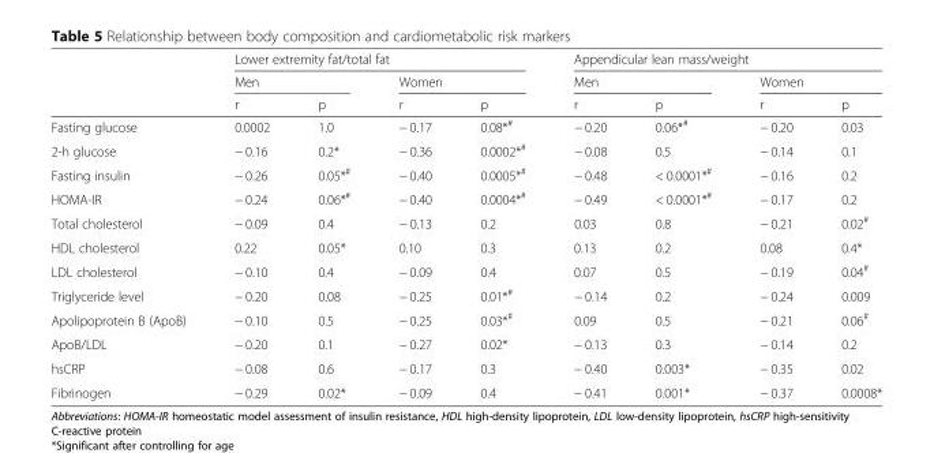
<table><thead><tr><td rowspan="3"></td><td colspan="4">Lower extremity fat/total fat</td><td colspan="4">Appendicular lean mass/weight</td></tr><tr><td colspan="2">Men</td><td colspan="2">Women</td><td colspan="2">Men</td><td colspan="2">Women</td></tr><tr><td>r</td><td>p</td><td>r</td><td>p</td><td>r</td><td>p</td><td>r</td><td>p</td></tr></thead><tbody><tr><td>Fasting glucose</td><td>0.0002</td><td>1.0</td><td>− 0.17</td><td>0.08*<sup>#</sup></td><td>− 0.20</td><td>0.06*<sup>#</sup></td><td>− 0.20</td><td>0.03</td></tr><tr><td>2-h glucose</td><td>− 0.16</td><td>0.2*</td><td>− 0.36</td><td>0.0002*<sup>#</sup></td><td>− 0.08</td><td>0.5</td><td>− 0.14</td><td>0.1</td></tr><tr><td>Fasting insulin</td><td>− 0.26</td><td>0.05*<sup>#</sup></td><td>− 0.40</td><td>0.0005*<sup>#</sup></td><td>− 0.48</td><td>&lt; 0.0001*<sup>#</sup></td><td>− 0.16</td><td>0.2</td></tr><tr><td>HOMA-IR</td><td>− 0.24</td><td>0.06*<sup>#</sup></td><td>− 0.40</td><td>0.0004*<sup>#</sup></td><td>− 0.49</td><td>&lt; 0.0001*<sup>#</sup></td><td>− 0.17</td><td>0.2</td></tr><tr><td>Total cholesterol</td><td>− 0.09</td><td>0.4</td><td>− 0.13</td><td>0.2</td><td>0.03</td><td>0.8</td><td>− 0.21</td><td>0.02<sup>#</sup></td></tr><tr><td>HDL cholesterol</td><td>0.22</td><td>0.05*</td><td>0.10</td><td>0.3</td><td>0.13</td><td>0.2</td><td>0.08</td><td>0.4*</td></tr><tr><td>LDL cholesterol</td><td>− 0.10</td><td>0.4</td><td>− 0.09</td><td>0.4</td><td>0.07</td><td>0.5</td><td>− 0.19</td><td>0.04<sup>#</sup></td></tr><tr><td>Triglyceride level</td><td>− 0.20</td><td>0.08</td><td>− 0.25</td><td>0.01*<sup>#</sup></td><td>− 0.14</td><td>0.2</td><td>− 0.24</td><td>0.009</td></tr><tr><td>Apolipoprotein B (ApoB)</td><td>− 0.10</td><td>0.5</td><td>− 0.25</td><td>0.03*<sup>#</sup></td><td>0.09</td><td>0.5</td><td>− 0.21</td><td>0.06<sup>#</sup></td></tr><tr><td>ApoB/LDL</td><td>− 0.20</td><td>0.1</td><td>− 0.27</td><td>0.02*</td><td>− 0.13</td><td>0.3</td><td>− 0.14</td><td>0.2</td></tr><tr><td>hsCRP</td><td>− 0.08</td><td>0.6</td><td>− 0.17</td><td>0.3</td><td>− 0.40</td><td>0.003*</td><td>− 0.35</td><td>0.02</td></tr><tr><td>Fibrinogen</td><td>− 0.29</td><td>0.02*</td><td>− 0.09</td><td>0.4</td><td>− 0.41</td><td>0.001*</td><td>− 0.37</td><td>0.0008*</td></tr></tbody></table>